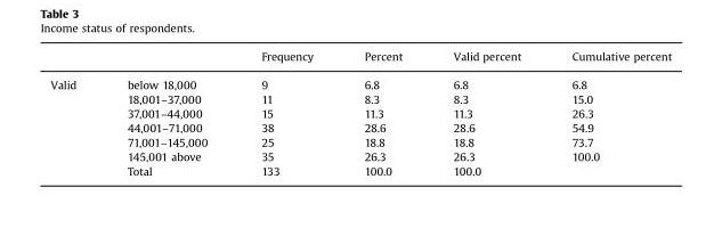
<table><thead><tr><td></td><td></td><td>Frequency</td><td>Percent</td><td>Valid percent</td><td>Cumulative percent</td></tr></thead><tbody><tr><td rowspan="7">Valid</td><td>below 18,000</td><td>9</td><td>6.8</td><td>6.8</td><td>6.8</td></tr><tr><td>18,001–37,000</td><td>11</td><td>8.3</td><td>8.3</td><td>15.0</td></tr><tr><td>37,001–44,000</td><td>15</td><td>11.3</td><td>11.3</td><td>26.3</td></tr><tr><td>44,001–71,000</td><td>38</td><td>28.6</td><td>28.6</td><td>54.9</td></tr><tr><td>71,001–145,000</td><td>25</td><td>18.8</td><td>18.8</td><td>73.7</td></tr><tr><td>145,001 above</td><td>35</td><td>26.3</td><td>26.3</td><td>100.0</td></tr><tr><td>Total</td><td>133</td><td>100.0</td><td>100.0</td><td></td></tr></tbody></table>